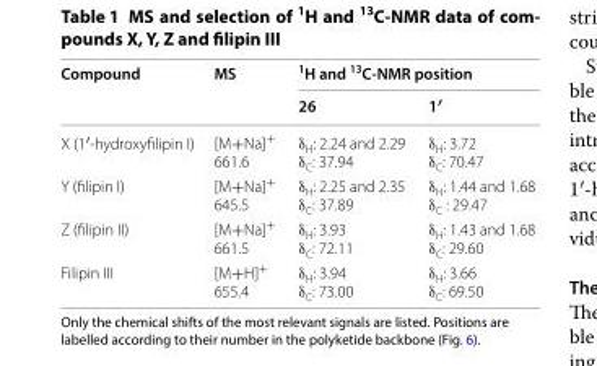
<table><thead><tr><td rowspan="2">Compound</td><td rowspan="2">MS</td><td colspan="2"><sup>1</sup>H and <sup>13</sup>C-NMR position</td></tr><tr><td>26</td><td>1′</td></tr></thead><tbody><tr><td>X (1′‑hydroxyfilipin I)</td><td>[M+Na]<sup>+</sup> 661.6</td><td>δ<sub>H</sub>: 2.24 and 2.29 δ<sub>C</sub>: 37.94</td><td>δ<sub>H</sub>: 3.72 δ<sub>C</sub>: 70.47</td></tr><tr><td>Y (filipin I)</td><td>[M+Na]<sup>+</sup> 645.5</td><td>δ<sub>H</sub>: 2.25 and 2.35 δ<sub>C</sub>: 37.89</td><td>δ<sub>H</sub>: 1.44 and 1.68 δ<sub>C</sub> : 29.47</td></tr><tr><td>Z (filipin II)</td><td>[M+Na]<sup>+</sup> 661.5</td><td>δ<sub>H</sub>: 3.93 δ<sub>C</sub>: 72.11</td><td>δ<sub>H</sub>: 1.43 and 1.68 δ<sub>C</sub>: 29.60</td></tr><tr><td>Filipin III</td><td>[M+H]<sup>+</sup> 655.4</td><td>δ<sub>H</sub>: 3.94 δ<sub>C</sub>: 73.00</td><td>δ<sub>H</sub>: 3.66 δ<sub>C</sub>: 69.50</td></tr></tbody></table>